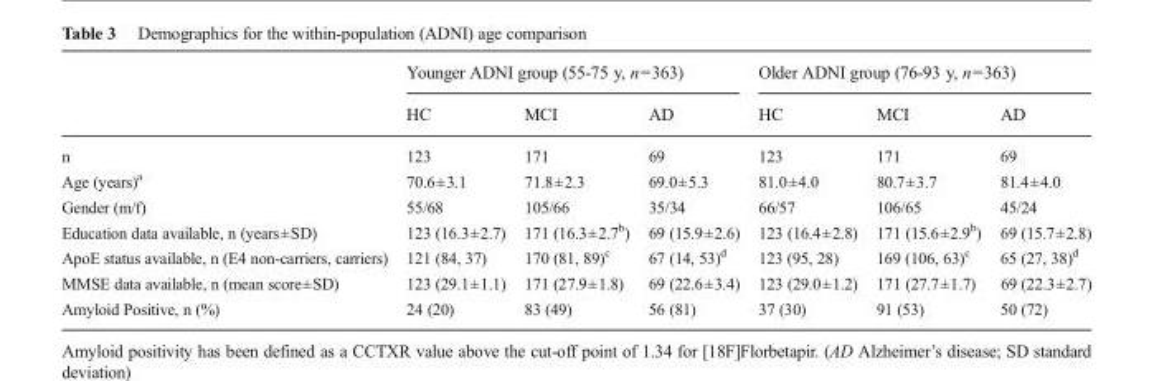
<table><thead><tr><td rowspan="2"></td><td colspan="3">Younger ADNI group (55-75 y, n=363)</td><td colspan="3">Older ADNI group (76-93 y, n=363)</td></tr><tr><td>HC</td><td>MCI</td><td>AD</td><td>HC</td><td>MCI</td><td>AD</td></tr></thead><tbody><tr><td>n</td><td>123</td><td>171</td><td>69</td><td>123</td><td>171</td><td>69</td></tr><tr><td>Age (years)<sup>a</sup></td><td>70.6±3.1</td><td>71.8±2.3</td><td>69.0±5.3</td><td>81.0±4.0</td><td>80.7±3.7</td><td>81.4±4.0</td></tr><tr><td>Gender (m/f)</td><td>55/68</td><td>105/66</td><td>35/34</td><td>66/57</td><td>106/65</td><td>45/24</td></tr><tr><td>Education data available, n (years±SD)</td><td>123 (16.3±2.7)</td><td>171 (16.3±2.7<sup>b</sup>)</td><td>69 (15.9±2.6)</td><td>123 (16.4±2.8)</td><td>171 (15.6±2.9<sup>b</sup>)</td><td>69 (15.7±2.8)</td></tr><tr><td>ApoE status available, n (E4 non-carriers, carriers)</td><td>121 (84, 37)</td><td>170 (81, 89)<sup>c</sup></td><td>67 (14, 53)<sup>d</sup></td><td>123 (95, 28)</td><td>169 (106, 63)<sup>c</sup></td><td>65 (27, 38)<sup>d</sup></td></tr><tr><td>MMSE data available, n (mean score±SD)</td><td>123 (29.1±1.1)</td><td>171 (27.9±1.8)</td><td>69 (22.6±3.4)</td><td>123 (29.0±1.2)</td><td>171 (27.7±1.7)</td><td>69 (22.3±2.7)</td></tr><tr><td>Amyloid Positive, n (%)</td><td>24 (20)</td><td>83 (49)</td><td>56 (81)</td><td>37 (30)</td><td>91 (53)</td><td>50 (72)</td></tr></tbody></table>